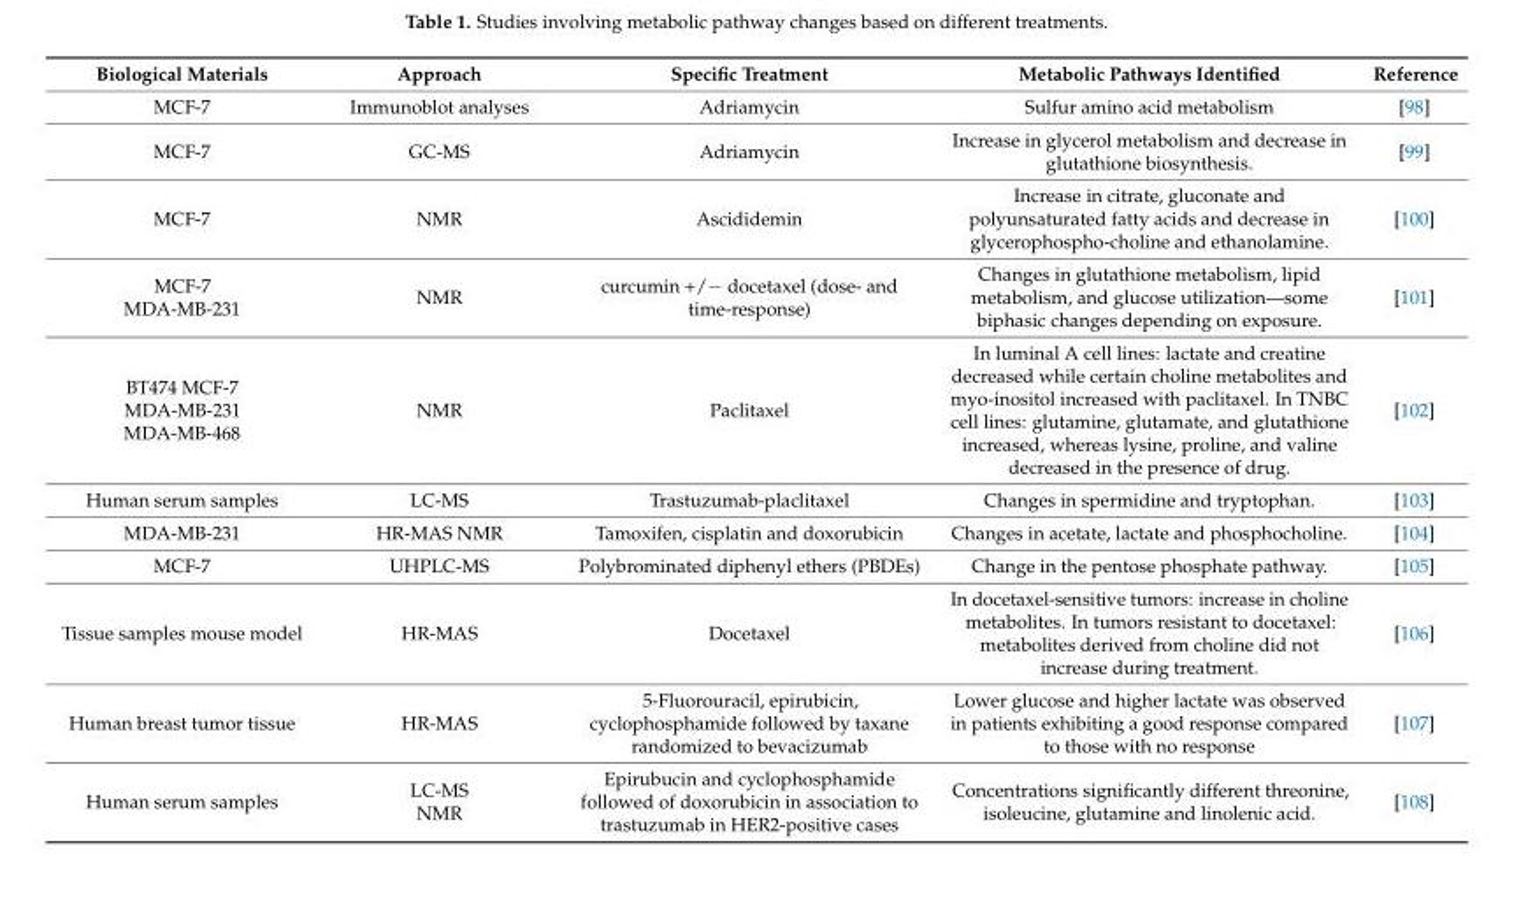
<table><thead><tr><td>Biological Materials</td><td>Approach</td><td>Specific Treatment</td><td>Metabolic Pathways Identified</td><td>Reference</td></tr></thead><tbody><tr><td>MCF-7</td><td>Immunoblot analyses</td><td>Adriamycin</td><td>Sulfur amino acid metabolism</td><td>[98]</td></tr><tr><td>MCF-7</td><td>GC-MS</td><td>Adriamycin</td><td>Increase in glycerol metabolism and decrease in glutathione biosynthesis.</td><td>[99]</td></tr><tr><td>MCF-7</td><td>NMR</td><td>Ascididemin</td><td>Increase in citrate, gluconate and polyunsaturated fatty acids and decrease in glycerophospho-choline and ethanolamine.</td><td>[100]</td></tr><tr><td>MCF-7 MDA-MB-231</td><td>NMR</td><td>curcumin +/− docetaxel (dose- and time-response)</td><td>Changes in glutathione metabolism, lipid metabolism, and glucose utilization—some biphasic changes depending on exposure.</td><td>[101]</td></tr><tr><td>BT474 MCF-7 MDA-MB-231 MDA-MB-468</td><td>NMR</td><td>Paclitaxel</td><td>In luminal A cell lines: lactate and creatine decreased while certain choline metabolites and myo-inositol increased with paclitaxel. In TNBC cell lines: glutamine, glutamate, and glutathione increased, whereas lysine, proline, and valine decreased in the presence of drug.</td><td>[102]</td></tr><tr><td>Human serum samples</td><td>LC-MS</td><td>Trastuzumab-placlitaxel</td><td>Changes in spermidine and tryptophan.</td><td>[103]</td></tr><tr><td>MDA-MB-231</td><td>HR-MAS NMR</td><td>Tamoxifen, cisplatin and doxorubicin</td><td>Changes in acetate, lactate and phosphocholine.</td><td>[104]</td></tr><tr><td>MCF-7</td><td>UHPLC-MS</td><td>Polybrominated diphenyl ethers (PBDEs)</td><td>Change in the pentose phosphate pathway.</td><td>[105]</td></tr><tr><td>Tissue samples mouse model</td><td>HR-MAS</td><td>Docetaxel</td><td>In docetaxel-sensitive tumors: increase in choline metabolites. In tumors resistant to docetaxel: metabolites derived from choline did not increase during treatment.</td><td>[106]</td></tr><tr><td>Human breast tumor tissue</td><td>HR-MAS</td><td>5-Fluorouracil, epirubicin, cyclophosphamide followed by taxane randomized to bevacizumab</td><td>Lower glucose and higher lactate was observed in patients exhibiting a good response compared to those with no response</td><td>[107]</td></tr><tr><td>Human serum samples</td><td>LC-MS NMR</td><td>Epirubucin and cyclophosphamide followed of doxorubicin in association to trastuzumab in HER2-positive cases</td><td>Concentrations significantly different threonine, isoleucine, glutamine and linolenic acid.</td><td>[108]</td></tr></tbody></table>